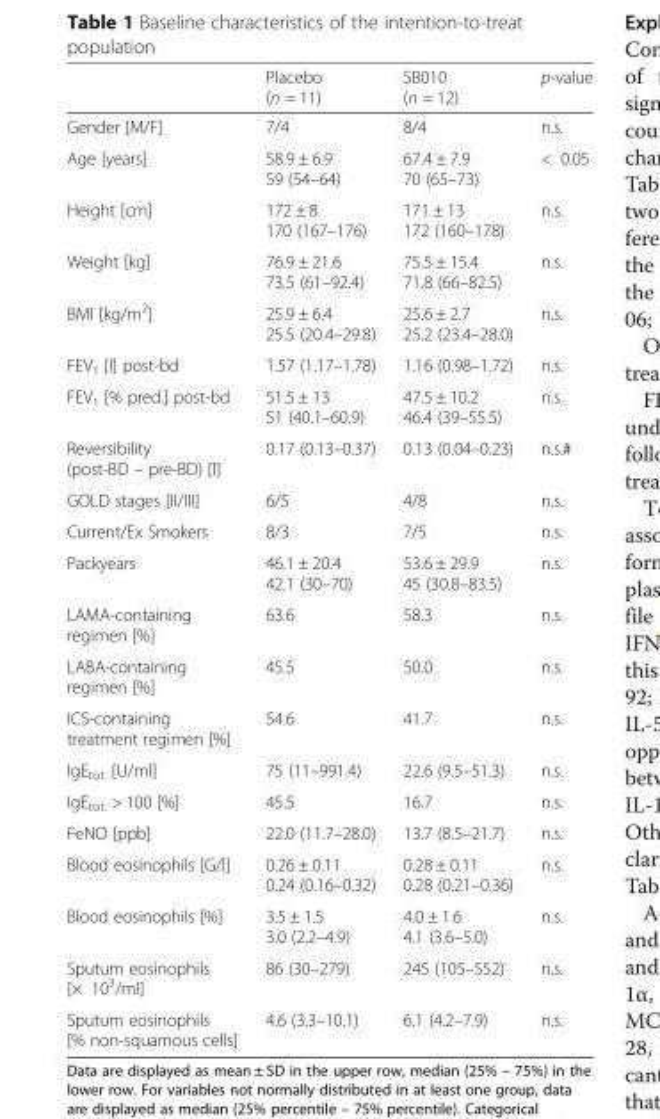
<table><thead><tr><td></td><td>Placebo (n = 11)</td><td>SB010 (n = 12)</td><td>p-value</td></tr></thead><tbody><tr><td>Gender [M/F]</td><td>7/4</td><td>8/4</td><td>n.s.</td></tr><tr><td>Age [years]</td><td>58.9 ± 6.9 59 (54–64)</td><td>67.4 ± 7.9 70 (65–73)</td><td>&lt; 0.05</td></tr><tr><td>Height [cm]</td><td>172 ± 8 170 (167–176)</td><td>171 ± 13 172 (160–178)</td><td>n.s.</td></tr><tr><td>Weight [kg]</td><td>76.9 ± 21.6 73.5 (61–92.4)</td><td>75.5 ± 15.4 71.8 (66–82.5)</td><td>n.s.</td></tr><tr><td>BMI [kg/m<sup>2</sup>]</td><td>25.9 ± 6.4 25.5 (20.4–29.8)</td><td>25.6 ± 2.7 25.2 (23.4–28.0)</td><td>n.s.</td></tr><tr><td>FEV<sub>1</sub> [l] post-bd</td><td>1.57 (1.17–1.78)</td><td>1.16 (0.98–1.72)</td><td>n.s.</td></tr><tr><td>FEV<sub>1</sub> [% pred.] post-bd</td><td>51.5 ± 13 51 (40.1–60.9)</td><td>47.5 ± 10.2 46.4 (39–55.5)</td><td>n.s.</td></tr><tr><td>Reversibility (post-BD – pre-BD) [l]</td><td>0.17 (0.13–0.37)</td><td>0.13 (0.04–0.23)</td><td>n.s.#</td></tr><tr><td>GOLD stages [II/III]</td><td>6/5</td><td>4/8</td><td>n.s.</td></tr><tr><td>Current/Ex Smokers</td><td>8/3</td><td>7/5</td><td>n.s.</td></tr><tr><td>Packyears</td><td>46.1 ± 20.4 42.1 (30–70)</td><td>53.6 ± 29.9 45 (30.8–83.5)</td><td>n.s.</td></tr><tr><td>LAMA-containing regimen [%]</td><td>63.6</td><td>58.3</td><td>n.s.</td></tr><tr><td>LABA-containing regimen [%]</td><td>45.5</td><td>50.0</td><td>n.s.</td></tr><tr><td>ICS-containing treatment regimen [%]</td><td>54.6</td><td>41.7</td><td>n.s.</td></tr><tr><td>IgE<sub>tot.</sub> [U/ml]</td><td>75 (11–991.4)</td><td>22.6 (9.5–51.3)</td><td>n.s.</td></tr><tr><td>IgE<sub>tot.</sub> &gt; 100 [%]</td><td>45.5</td><td>16.7</td><td>n.s.</td></tr><tr><td>FeNO [ppb]</td><td>22.0 (11.7–28.0)</td><td>13.7 (8.5–21.7)</td><td>n.s.</td></tr><tr><td>Blood eosinophils [G/l]</td><td>0.26 ± 0.11 0.24 (0.16–0.32)</td><td>0.28 ± 0.11 0.28 (0.21–0.36)</td><td>n.s.</td></tr><tr><td>Blood eosinophils [%]</td><td>3.5 ± 1.5 3.0 (2.2–4.9)</td><td>4.0 ± 1.6 4.1 (3.6–5.0)</td><td>n.s.</td></tr><tr><td>Sputum eosinophils [× 10<sup>3</sup>/ml]</td><td>86 (30–279)</td><td>245 (105–552)</td><td>n.s.</td></tr><tr><td>Sputum eosinophils [% non-squamous cells]</td><td>4.6 (3.3–10.1)</td><td>6.1 (4.2–7.9)</td><td>n.s.</td></tr></tbody></table>